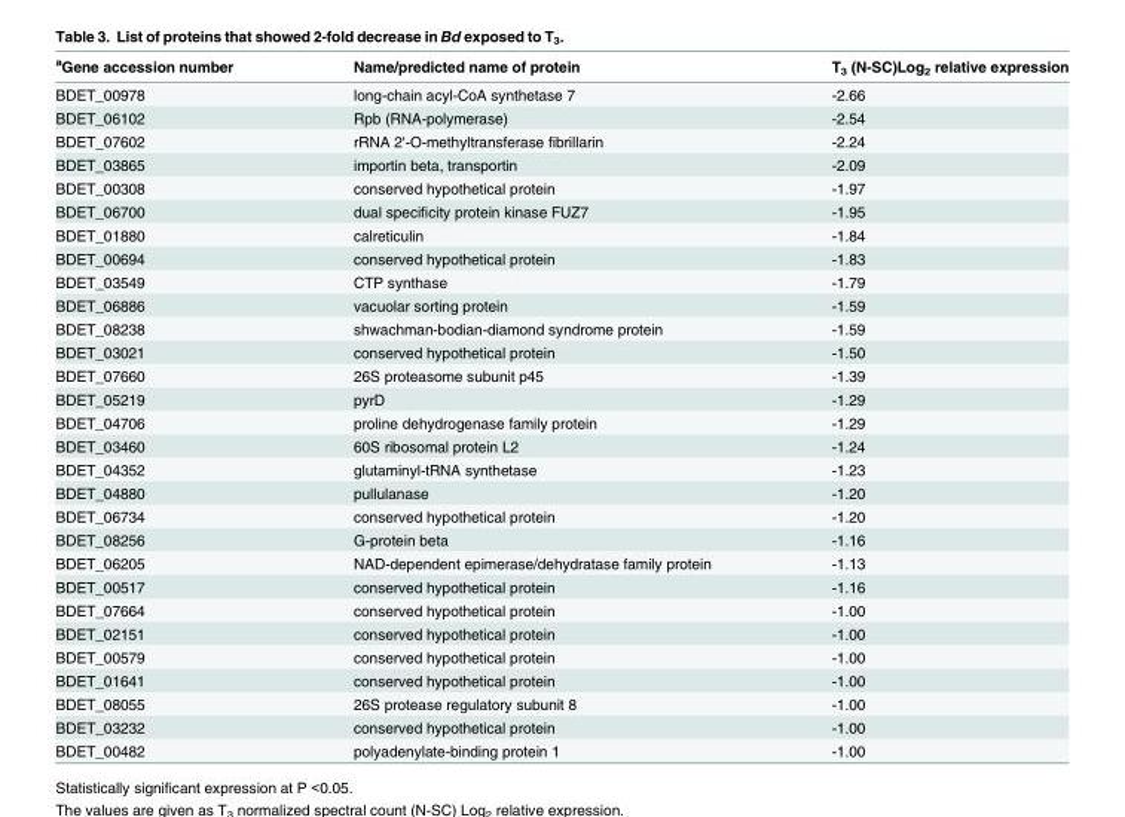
<table><thead><tr><td><sup>a</sup>Gene accession number</td><td>Name/predicted name of protein</td><td>T<sub>3</sub> (N-SC)Log<sub>2</sub> relative expression</td></tr></thead><tbody><tr><td>BDET_00978</td><td>long-chain acyl-CoA synthetase 7</td><td>-2.66</td></tr><tr><td>BDET_06102</td><td>Rpb (RNA-polymerase)</td><td>-2.54</td></tr><tr><td>BDET_07602</td><td>rRNA 2&#x27;-O-methyltransferase fibrillarin</td><td>-2.24</td></tr><tr><td>BDET_03865</td><td>importin beta, transportin</td><td>-2.09</td></tr><tr><td>BDET_00308</td><td>conserved hypothetical protein</td><td>-1.97</td></tr><tr><td>BDET_06700</td><td>dual specificity protein kinase FUZ7</td><td>-1.95</td></tr><tr><td>BDET_01880</td><td>calreticulin</td><td>-1.84</td></tr><tr><td>BDET_00694</td><td>conserved hypothetical protein</td><td>-1.83</td></tr><tr><td>BDET_03549</td><td>CTP synthase</td><td>-1.79</td></tr><tr><td>BDET_06886</td><td>vacuolar sorting protein</td><td>-1.59</td></tr><tr><td>BDET_08238</td><td>shwachman-bodian-diamond syndrome protein</td><td>-1.59</td></tr><tr><td>BDET_03021</td><td>conserved hypothetical protein</td><td>-1.50</td></tr><tr><td>BDET_07660</td><td>26S proteasome subunit p45</td><td>-1.39</td></tr><tr><td>BDET_05219</td><td>pyrD</td><td>-1.29</td></tr><tr><td>BDET_04706</td><td>proline dehydrogenase family protein</td><td>-1.29</td></tr><tr><td>BDET_03460</td><td>60S ribosomal protein L2</td><td>-1.24</td></tr><tr><td>BDET_04352</td><td>glutaminyl-tRNA synthetase</td><td>-1.23</td></tr><tr><td>BDET_04880</td><td>pullulanase</td><td>-1.20</td></tr><tr><td>BDET_06734</td><td>conserved hypothetical protein</td><td>-1.20</td></tr><tr><td>BDET_08256</td><td>G-protein beta</td><td>-1.16</td></tr><tr><td>BDET_06205</td><td>NAD-dependent epimerase/dehydratase family protein</td><td>-1.13</td></tr><tr><td>BDET_00517</td><td>conserved hypothetical protein</td><td>-1.16</td></tr><tr><td>BDET_07664</td><td>conserved hypothetical protein</td><td>-1.00</td></tr><tr><td>BDET_02151</td><td>conserved hypothetical protein</td><td>-1.00</td></tr><tr><td>BDET_00579</td><td>conserved hypothetical protein</td><td>-1.00</td></tr><tr><td>BDET_01641</td><td>conserved hypothetical protein</td><td>-1.00</td></tr><tr><td>BDET_08055</td><td>26S protease regulatory subunit 8</td><td>-1.00</td></tr><tr><td>BDET_03232</td><td>conserved hypothetical protein</td><td>-1.00</td></tr><tr><td>BDET_00482</td><td>polyadenylate-binding protein 1</td><td>-1.00</td></tr></tbody></table>